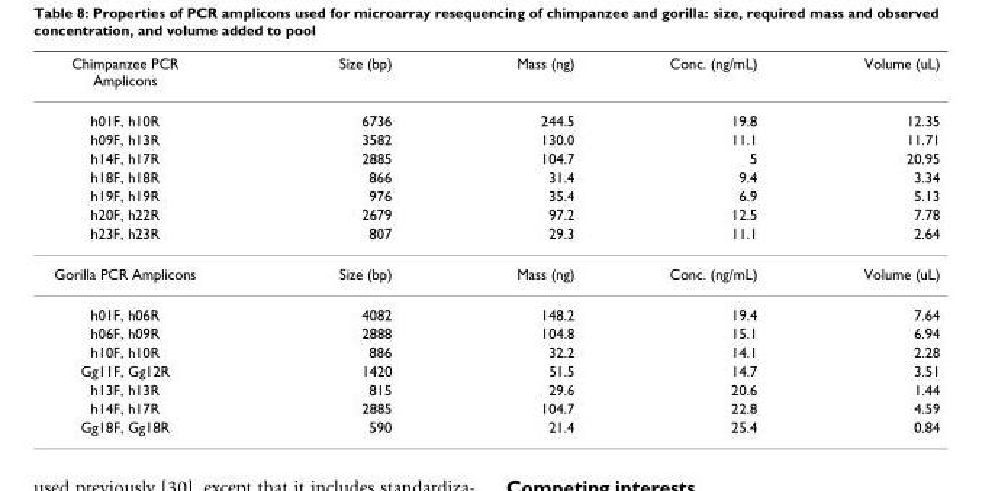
<table><thead><tr><td>Chimpanzee PCR Amplicons</td><td>Size (bp)</td><td>Mass (ng)</td><td>Conc. (ng/mL)</td><td>Volume (uL)</td></tr></thead><tbody><tr><td>h01F, h10R</td><td>6736</td><td>244.5</td><td>19.8</td><td>12.35</td></tr><tr><td>h09F, h13R</td><td>3582</td><td>130.0</td><td>11.1</td><td>11.71</td></tr><tr><td>h14F, h17R</td><td>2885</td><td>104.7</td><td>5</td><td>20.95</td></tr><tr><td>h18F, h18R</td><td>866</td><td>31.4</td><td>9.4</td><td>3.34</td></tr><tr><td>h19F, h19R</td><td>976</td><td>35.4</td><td>6.9</td><td>5.13</td></tr><tr><td>h20F, h22R</td><td>2679</td><td>97.2</td><td>12.5</td><td>7.78</td></tr><tr><td>h23F, h23R</td><td>807</td><td>29.3</td><td>11.1</td><td>2.64</td></tr><tr><td>Gorilla PCR Amplicons</td><td>Size (bp)</td><td>Mass (ng)</td><td>Conc. (ng/mL)</td><td>Volume (uL)</td></tr><tr><td>h01F, h06R</td><td>4082</td><td>148.2</td><td>19.4</td><td>7.64</td></tr><tr><td>h06F, h09R</td><td>2888</td><td>104.8</td><td>15.1</td><td>6.94</td></tr><tr><td>h10F, h10R</td><td>886</td><td>32.2</td><td>14.1</td><td>2.28</td></tr><tr><td>Gg11F, Gg12R</td><td>1420</td><td>51.5</td><td>14.7</td><td>3.51</td></tr><tr><td>h13F, h13R</td><td>815</td><td>29.6</td><td>20.6</td><td>1.44</td></tr><tr><td>h14F, h17R</td><td>2885</td><td>104.7</td><td>22.8</td><td>4.59</td></tr><tr><td>Gg18F, Gg18R</td><td>590</td><td>21.4</td><td>25.4</td><td>0.84</td></tr></tbody></table>